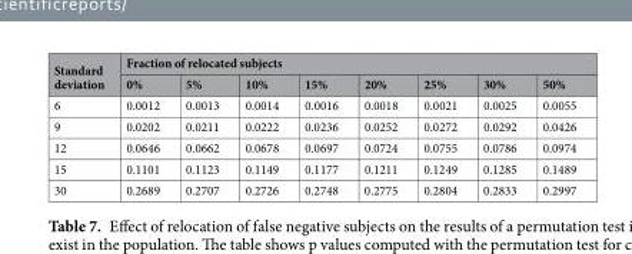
<table><thead><tr><td rowspan="2">Standard deviation</td><td colspan="8">Fraction of relocated subjects</td></tr><tr><td>0%</td><td>5%</td><td>10%</td><td>15%</td><td>20%</td><td>25%</td><td>30%</td><td>50%</td></tr></thead><tbody><tr><td>6</td><td>0.0012</td><td>0.0013</td><td>0.0014</td><td>0.0016</td><td>0.0018</td><td>0.0021</td><td>0.0025</td><td>0.0055</td></tr><tr><td>9</td><td>0.0202</td><td>0.0211</td><td>0.0222</td><td>0.0236</td><td>0.0252</td><td>0.0272</td><td>0.0292</td><td>0.0426</td></tr><tr><td>12</td><td>0.0646</td><td>0.0662</td><td>0.0678</td><td>0.0697</td><td>0.0724</td><td>0.0755</td><td>0.0786</td><td>0.0974</td></tr><tr><td>15</td><td>0.1101</td><td>0.1123</td><td>0.1149</td><td>0.1177</td><td>0.1211</td><td>0.1249</td><td>0.1285</td><td>0.1489</td></tr><tr><td>30</td><td>0.2689</td><td>0.2707</td><td>0.2726</td><td>0.2748</td><td>0.2775</td><td>0.2804</td><td>0.2833</td><td>0.2997</td></tr></tbody></table>